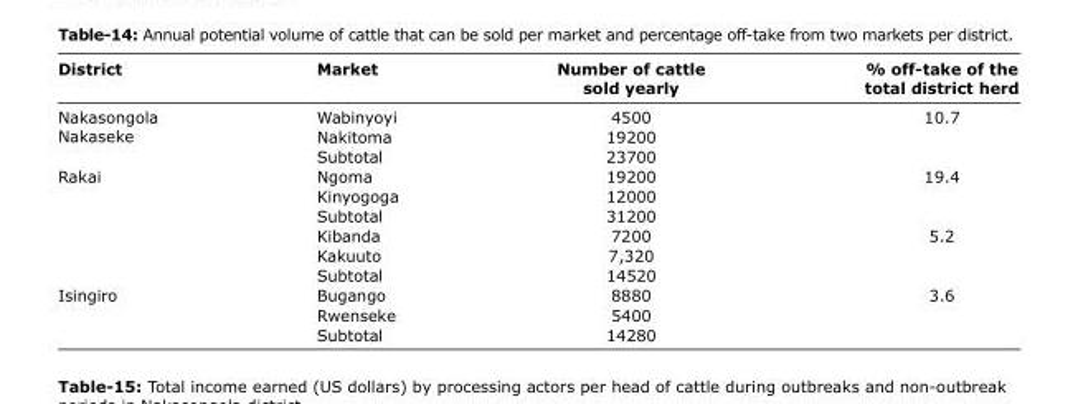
<table><thead><tr><td>District</td><td>Market</td><td>Number of cattle sold yearly</td><td>% off-take of the total district herd</td></tr></thead><tbody><tr><td rowspan="3">Nakasongola Nakaseke</td><td>Wabinyoyi</td><td>4500</td><td>10.7</td></tr><tr><td>Nakitoma</td><td>19200</td><td></td></tr><tr><td>Subtotal</td><td>23700</td><td></td></tr><tr><td rowspan="6">Rakai</td><td>Ngoma</td><td>19200</td><td>19.4</td></tr><tr><td>Kinyogoga</td><td>12000</td><td></td></tr><tr><td>Subtotal</td><td>31200</td><td></td></tr><tr><td>Kibanda</td><td>7200</td><td>5.2</td></tr><tr><td>Kakuuto</td><td>7,320</td><td></td></tr><tr><td>Subtotal</td><td>14520</td><td></td></tr><tr><td rowspan="3">Isingiro</td><td>Bugango</td><td>8880</td><td>3.6</td></tr><tr><td>Rwenseke</td><td>5400</td><td></td></tr><tr><td>Subtotal</td><td>14280</td><td></td></tr></tbody></table>